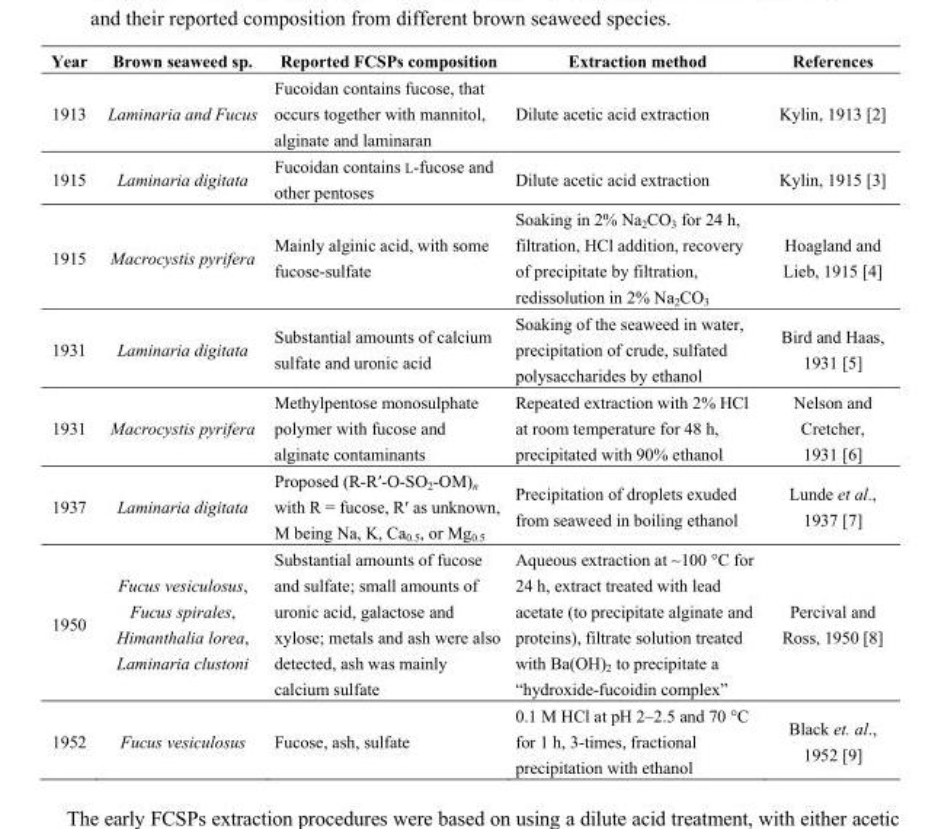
<table><thead><tr><td>Year</td><td>Brown seaweed sp.</td><td>Reported FCSPs composition</td><td>Extraction method</td><td>References</td></tr></thead><tbody><tr><td>1913</td><td>Laminaria and Fucus</td><td>Fucoidan contains fucose, that occurs together with mannitol, alginate and laminaran</td><td>Dilute acetic acid extraction</td><td>Kylin, 1913 [2]</td></tr><tr><td>1915</td><td>Laminaria digitata</td><td>Fucoidan contains L-fucose and other pentoses</td><td>Dilute acetic acid extraction</td><td>Kylin, 1915 [3]</td></tr><tr><td>1915</td><td>Macrocystis pyrifera</td><td>Mainly alginic acid, with some fucose-sulfate</td><td>Soaking in 2% Na<sub>2</sub>CO<sub>3</sub> for 24 h, filtration, HCl addition, recovery of precipitate by filtration, redissolution in 2% Na<sub>2</sub>CO<sub>3</sub></td><td>Hoagland and Lieb, 1915 [4]</td></tr><tr><td>1931</td><td>Laminaria digitata</td><td>Substantial amounts of calcium sulfate and uronic acid</td><td>Soaking of the seaweed in water, precipitation of crude, sulfated polysaccharides by ethanol</td><td>Bird and Haas, 1931 [5]</td></tr><tr><td>1931</td><td>Macrocystis pyrifera</td><td>Methylpentose monosulphate polymer with fucose and alginate contaminants</td><td>Repeated extraction with 2% HCl at room temperature for 48 h, precipitated with 90% ethanol</td><td>Nelson and Cretcher, 1931 [6]</td></tr><tr><td>1937</td><td>Laminaria digitata</td><td>Proposed (R-R′-O-SO<sub>2</sub>-OM)<sub>n</sub> with R = fucose, R′ as unknown, M being Na, K, Ca<sub>0.5</sub>, or Mg<sub>0.5</sub></td><td>Precipitation of droplets exuded from seaweed in boiling ethanol</td><td>Lunde et al., 1937 [7]</td></tr><tr><td>1950</td><td>Fucus vesiculosus, Fucus spirales, Himanthalia lorea, Laminaria clustoni</td><td>Substantial amounts of fucose and sulfate; small amounts of uronic acid, galactose and xylose; metals and ash were also detected, ash was mainly calcium sulfate</td><td>Aqueous extraction at ∼100 °C for 24 h, extract treated with lead acetate (to precipitate alginate and proteins), filtrate solution treated with Ba(OH)2 to precipitate a “hydroxide-fucoidin complex”</td><td>Percival and Ross, 1950 [8]</td></tr><tr><td>1952</td><td>Fucus vesiculosus</td><td>Fucose, ash, sulfate</td><td>0.1 M HCl at pH 2–2.5 and 70 °C for 1 h, 3-times, fractional precipitation with ethanol</td><td>Black et. al., 1952 [9]</td></tr></tbody></table>